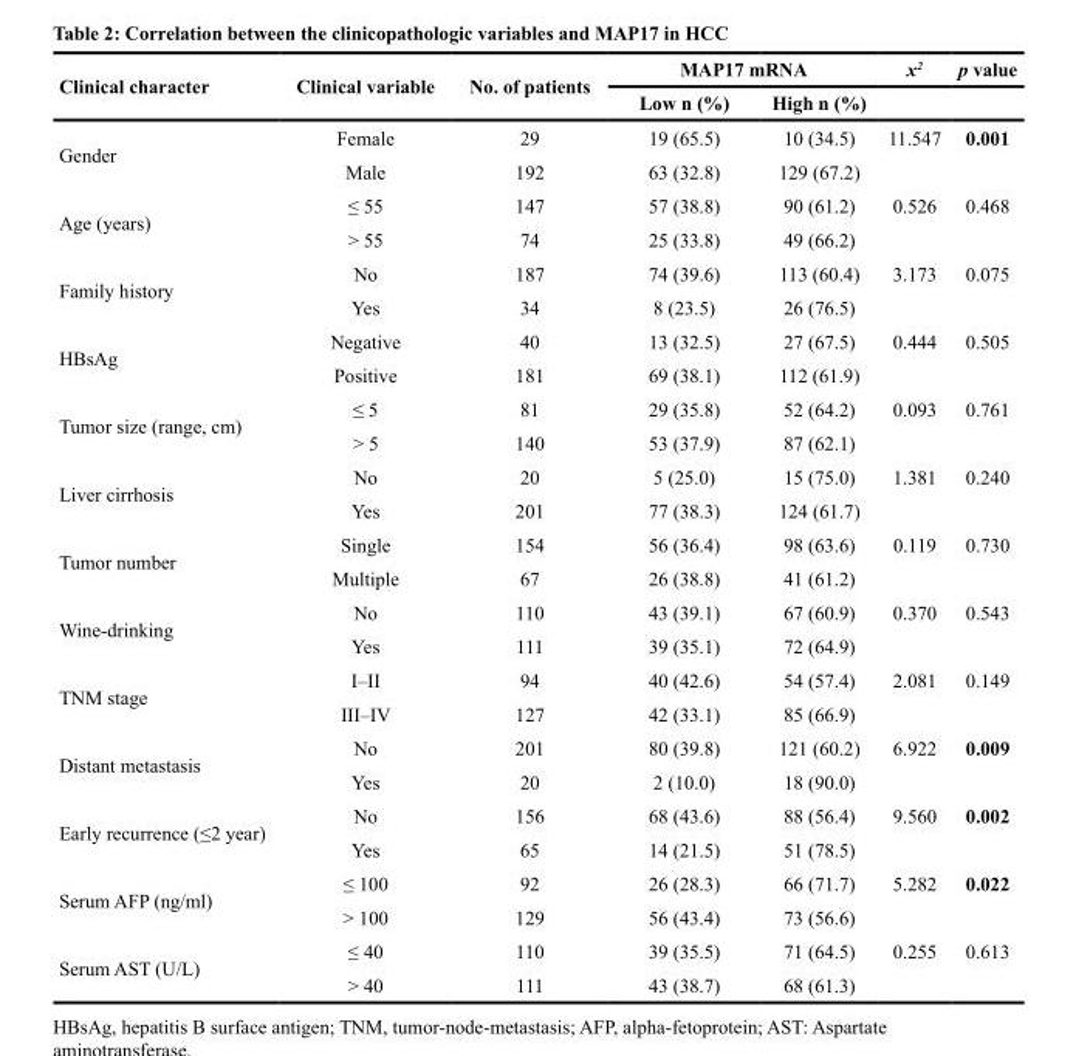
<table><thead><tr><td rowspan="2">Clinical character</td><td rowspan="2">Clinical variable</td><td rowspan="2">No. of patients</td><td colspan="2">MAP17 mRNA</td><td rowspan="2">x<sup>2</sup></td><td rowspan="2">p value</td></tr><tr><td>Low n (%)</td><td>High n (%)</td></tr></thead><tbody><tr><td rowspan="2">Gender</td><td>Female</td><td>29</td><td>19 (65.5)</td><td>10 (34.5)</td><td>11.547</td><td>0.001</td></tr><tr><td>Male</td><td>192</td><td>63 (32.8)</td><td>129 (67.2)</td><td></td><td></td></tr><tr><td rowspan="2">Age (years)</td><td>≤ 55</td><td>147</td><td>57 (38.8)</td><td>90 (61.2)</td><td>0.526</td><td>0.468</td></tr><tr><td>&gt; 55</td><td>74</td><td>25 (33.8)</td><td>49 (66.2)</td><td></td><td></td></tr><tr><td rowspan="2">Family history</td><td>No</td><td>187</td><td>74 (39.6)</td><td>113 (60.4)</td><td>3.173</td><td>0.075</td></tr><tr><td>Yes</td><td>34</td><td>8 (23.5)</td><td>26 (76.5)</td><td></td><td></td></tr><tr><td rowspan="2">HBsAg</td><td>Negative</td><td>40</td><td>13 (32.5)</td><td>27 (67.5)</td><td>0.444</td><td>0.505</td></tr><tr><td>Positive</td><td>181</td><td>69 (38.1)</td><td>112 (61.9)</td><td></td><td></td></tr><tr><td rowspan="2">Tumor size (range, cm)</td><td>≤ 5</td><td>81</td><td>29 (35.8)</td><td>52 (64.2)</td><td>0.093</td><td>0.761</td></tr><tr><td>&gt; 5</td><td>140</td><td>53 (37.9)</td><td>87 (62.1)</td><td></td><td></td></tr><tr><td rowspan="2">Liver cirrhosis</td><td>No</td><td>20</td><td>5 (25.0)</td><td>15 (75.0)</td><td>1.381</td><td>0.240</td></tr><tr><td>Yes</td><td>201</td><td>77 (38.3)</td><td>124 (61.7)</td><td></td><td></td></tr><tr><td rowspan="2">Tumor number</td><td>Single</td><td>154</td><td>56 (36.4)</td><td>98 (63.6)</td><td>0.119</td><td>0.730</td></tr><tr><td>Multiple</td><td>67</td><td>26 (38.8)</td><td>41 (61.2)</td><td></td><td></td></tr><tr><td rowspan="2">Wine-drinking</td><td>No</td><td>110</td><td>43 (39.1)</td><td>67 (60.9)</td><td>0.370</td><td>0.543</td></tr><tr><td>Yes</td><td>111</td><td>39 (35.1)</td><td>72 (64.9)</td><td></td><td></td></tr><tr><td rowspan="2">TNM stage</td><td>I–II</td><td>94</td><td>40 (42.6)</td><td>54 (57.4)</td><td>2.081</td><td>0.149</td></tr><tr><td>III–IV</td><td>127</td><td>42 (33.1)</td><td>85 (66.9)</td><td></td><td></td></tr><tr><td rowspan="2">Distant metastasis</td><td>No</td><td>201</td><td>80 (39.8)</td><td>121 (60.2)</td><td>6.922</td><td>0.009</td></tr><tr><td>Yes</td><td>20</td><td>2 (10.0)</td><td>18 (90.0)</td><td></td><td></td></tr><tr><td rowspan="2">Early recurrence (≤2 year)</td><td>No</td><td>156</td><td>68 (43.6)</td><td>88 (56.4)</td><td>9.560</td><td>0.002</td></tr><tr><td>Yes</td><td>65</td><td>14 (21.5)</td><td>51 (78.5)</td><td></td><td></td></tr><tr><td rowspan="2">Serum AFP (ng/ml)</td><td>≤ 100</td><td>92</td><td>26 (28.3)</td><td>66 (71.7)</td><td>5.282</td><td>0.022</td></tr><tr><td>&gt; 100</td><td>129</td><td>56 (43.4)</td><td>73 (56.6)</td><td></td><td></td></tr><tr><td rowspan="2">Serum AST (U/L)</td><td>≤ 40</td><td>110</td><td>39 (35.5)</td><td>71 (64.5)</td><td>0.255</td><td>0.613</td></tr><tr><td>&gt; 40</td><td>111</td><td>43 (38.7)</td><td>68 (61.3)</td><td></td><td></td></tr></tbody></table>